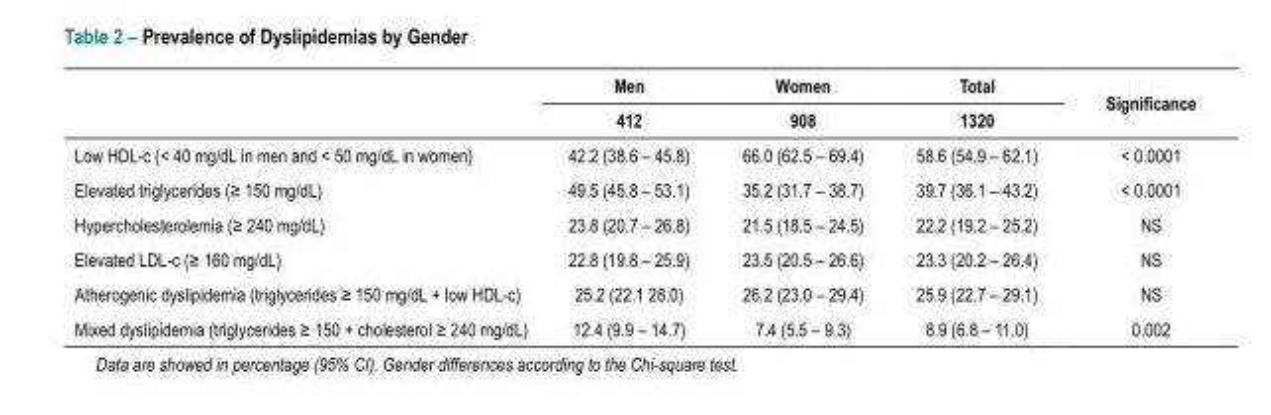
<table><thead><tr><td rowspan="2"></td><td rowspan="2">Men 412</td><td rowspan="2">Women 908</td><td rowspan="2">Total 1320</td><td rowspan="2">Significance</td></tr><tr></tr></thead><tbody><tr><td>Low HDL-c (&lt; 40 mg/dL in men and &lt; 50 mg/dL in women)</td><td>42.2 (38.6 – 45.8)</td><td>66.0 (62.5 – 69.4)</td><td>58.6 (54.9 – 62.1)</td><td>&lt; 0.0001</td></tr><tr><td>Elevated triglycerides (≥ 150 mg/dL)</td><td>49.5 (45.8 – 53.1)</td><td>35.2 (31.7 – 38.7)</td><td>39.7 (36.1 – 43.2)</td><td>&lt; 0.0001</td></tr><tr><td>Hypercholesterolemia (≥ 240 mg/dL)</td><td>23.8 (20.7 – 26.8)</td><td>21.5 (18.5 – 24.5)</td><td>22.2 (19.2 – 25.2)</td><td>NS</td></tr><tr><td>Elevated LDL-c (≥ 160 mg/dL)</td><td>22.8 (19.8 – 25.9)</td><td>23.5 (20.5 – 26.6)</td><td>23.3 (20.2 – 26.4)</td><td>NS</td></tr><tr><td>Atherogenic dyslipidemia (triglycerides ≥ 150 mg/dL + low HDL-c)</td><td>25.2 (22.1 28.0)</td><td>26.2 (23.0 – 29.4)</td><td>25.9 (22.7 – 29.1)</td><td>NS</td></tr><tr><td>Mixed dyslipidemia (triglycerides ≥ 150 + cholesterol ≥ 240 mg/dL)</td><td>12.4 (9.9 – 14.7)</td><td>7.4 (5.5 – 9.3)</td><td>8.9 (6.8 – 11.0)</td><td>0.002</td></tr></tbody></table>